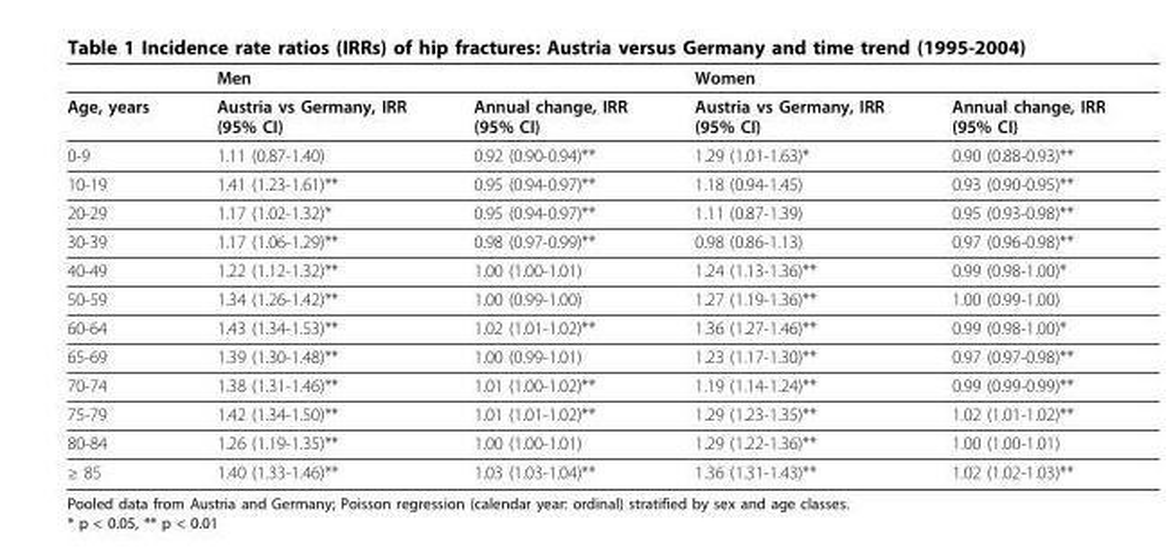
<table><thead><tr><td></td><td>Men</td><td></td><td>Women</td><td></td></tr></thead><tbody><tr><td>Age, years</td><td>Austria vs Germany, IRR (95% CI)</td><td>Annual change, IRR (95% CI)</td><td>Austria vs Germany, IRR (95% CI)</td><td>Annual change, IRR (95% CI)</td></tr><tr><td>0-9</td><td>1.11 (0.87-1.40)</td><td>0.92 (0.90-0.94)**</td><td>1.29 (1.01-1.63)*</td><td>0.90 (0.88-0.93)**</td></tr><tr><td>10-19</td><td>1.41 (1.23-1.61)**</td><td>0.95 (0.94-0.97)**</td><td>1.18 (0.94-1.45)</td><td>0.93 (0.90-0.95)**</td></tr><tr><td>20-29</td><td>1.17 (1.02-1.32)*</td><td>0.95 (0.94-0.97)**</td><td>1.11 (0.87-1.39)</td><td>0.95 (0.93-0.98)**</td></tr><tr><td>30-39</td><td>1.17 (1.06-1.29)**</td><td>0.98 (0.97-0.99)**</td><td>0.98 (0.86-1.13)</td><td>0.97 (0.96-0.98)**</td></tr><tr><td>40-49</td><td>1.22 (1.12-1.32)**</td><td>1.00 (1.00-1.01)</td><td>1.24 (1.13-1.36)**</td><td>0.99 (0.98-1.00)*</td></tr><tr><td>50-59</td><td>1.34 (1.26-1.42)**</td><td>1.00 (0.99-1.00)</td><td>1.27 (1.19-1.36)**</td><td>1.00 (0.99-1.00)</td></tr><tr><td>60-64</td><td>1.43 (1.34-1.53)**</td><td>1.02 (1.01-1.02)**</td><td>1.36 (1.27-1.46)**</td><td>0.99 (0.98-1.00)*</td></tr><tr><td>65-69</td><td>1.39 (1.30-1.48)**</td><td>1.00 (0.99-1.01)</td><td>1.23 (1.17-1.30)**</td><td>0.97 (0.97-0.98)**</td></tr><tr><td>70-74</td><td>1.38 (1.31-1.46)**</td><td>1.01 (1.00-1.02)**</td><td>1.19 (1.14-1.24)**</td><td>0.99 (0.99-0.99)**</td></tr><tr><td>75-79</td><td>1.42 (1.34-1.50)**</td><td>1.01 (1.01-1.02)**</td><td>1.29 (1.23-1.35)**</td><td>1.02 (1.01-1.02)**</td></tr><tr><td>80-84</td><td>1.26 (1.19-1.35)**</td><td>1.00 (1.00-1.01)</td><td>1.29 (1.22-1.36)**</td><td>1.00 (1.00-1.01)</td></tr><tr><td>≥ 85</td><td>1.40 (1.33-1.46)**</td><td>1.03 (1.03-1.04)**</td><td>1.36 (1.31-1.43)**</td><td>1.02 (1.02-1.03)**</td></tr></tbody></table>